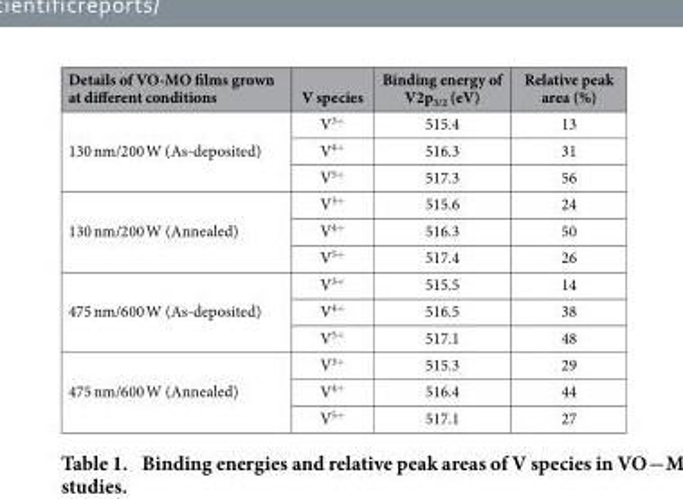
<table><thead><tr><td>Details of VO-MO films grown at different conditions</td><td>V species</td><td>Binding energy of V2p<sub>3/2</sub> (eV)</td><td>Relative peak area (%)</td></tr></thead><tbody><tr><td rowspan="3">130 nm/200 W (As-deposited)</td><td>V<sup>3+</sup></td><td>515.4</td><td>13</td></tr><tr><td>V<sup>4+</sup></td><td>516.3</td><td>31</td></tr><tr><td>V<sup>5+</sup></td><td>517.3</td><td>56</td></tr><tr><td rowspan="3">130 nm/200 W (Annealed)</td><td>V<sup>3+</sup></td><td>515.6</td><td>24</td></tr><tr><td>V<sup>4+</sup></td><td>516.3</td><td>50</td></tr><tr><td>V<sup>5+</sup></td><td>517.4</td><td>26</td></tr><tr><td rowspan="3">475 nm/600 W (As-deposited)</td><td>V<sup>3+</sup></td><td>515.5</td><td>14</td></tr><tr><td>V<sup>4+</sup></td><td>516.5</td><td>38</td></tr><tr><td>V<sup>5+</sup></td><td>517.1</td><td>48</td></tr><tr><td rowspan="3">475 nm/600 W (Annealed)</td><td>V<sup>3+</sup></td><td>515.3</td><td>29</td></tr><tr><td>V<sup>4+</sup></td><td>516.4</td><td>44</td></tr><tr><td>V<sup>5+</sup></td><td>517.1</td><td>27</td></tr></tbody></table>